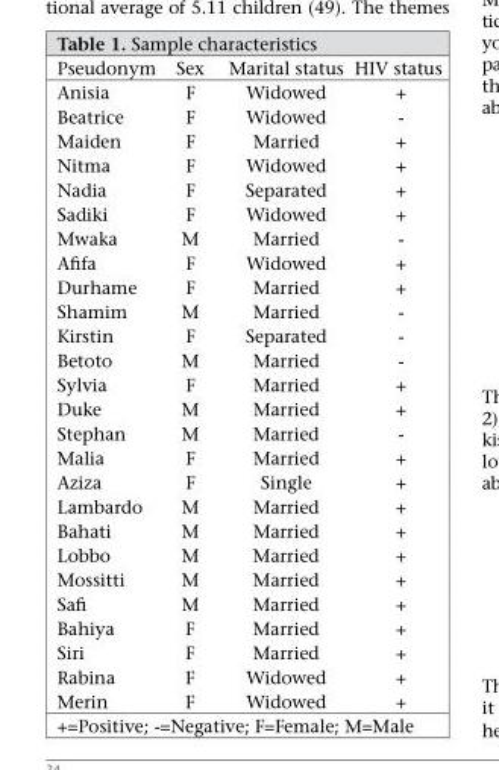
<table><thead><tr><td>Pseudonym</td><td>Sex</td><td>Marital status</td><td>HIV status</td></tr></thead><tbody><tr><td>Anisia</td><td>F</td><td>Widowed</td><td>+</td></tr><tr><td>Beatrice</td><td>F</td><td>Widowed</td><td>-</td></tr><tr><td>Maiden</td><td>F</td><td>Married</td><td>+</td></tr><tr><td>Nitma</td><td>F</td><td>Widowed</td><td>+</td></tr><tr><td>Nadia</td><td>F</td><td>Separated</td><td>+</td></tr><tr><td>Sadiki</td><td>F</td><td>Widowed</td><td>+</td></tr><tr><td>Mwaka</td><td>M</td><td>Married</td><td>-</td></tr><tr><td>Afifa</td><td>F</td><td>Widowed</td><td>+</td></tr><tr><td>Durhame</td><td>F</td><td>Married</td><td>+</td></tr><tr><td>Shamim</td><td>M</td><td>Married</td><td>-</td></tr><tr><td>Kirstin</td><td>F</td><td>Separated</td><td>-</td></tr><tr><td>Betoto</td><td>M</td><td>Married</td><td>-</td></tr><tr><td>Sylvia</td><td>F</td><td>Married</td><td>+</td></tr><tr><td>Duke</td><td>M</td><td>Married</td><td>+</td></tr><tr><td>Stephan</td><td>M</td><td>Married</td><td>-</td></tr><tr><td>Malia</td><td>F</td><td>Married</td><td>+</td></tr><tr><td>Aziza</td><td>F</td><td>Single</td><td>+</td></tr><tr><td>Lambardo</td><td>M</td><td>Married</td><td>+</td></tr><tr><td>Bahati</td><td>M</td><td>Married</td><td>+</td></tr><tr><td>Lobbo</td><td>M</td><td>Married</td><td>+</td></tr><tr><td>Mossitti</td><td>M</td><td>Married</td><td>+</td></tr><tr><td>Safi</td><td>M</td><td>Married</td><td>+</td></tr><tr><td>Bahiya</td><td>F</td><td>Married</td><td>+</td></tr><tr><td>Siri</td><td>F</td><td>Married</td><td>+</td></tr><tr><td>Rabina</td><td>F</td><td>Widowed</td><td>+</td></tr><tr><td>Merin</td><td>F</td><td>Widowed</td><td>+</td></tr></tbody></table>